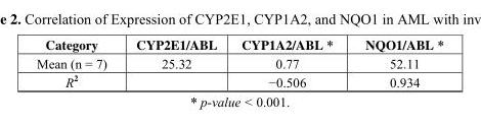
<table><thead><tr><td>Category</td><td>CYP2E1/ABL</td><td>CYP1A2/ABL *</td><td>NQO1/ABL *</td></tr></thead><tbody><tr><td>Mean (n = 7)</td><td>25.32</td><td>0.77</td><td>52.11</td></tr><tr><td>R<sup>2</sup></td><td></td><td>−0.506</td><td>0.934</td></tr></tbody></table>